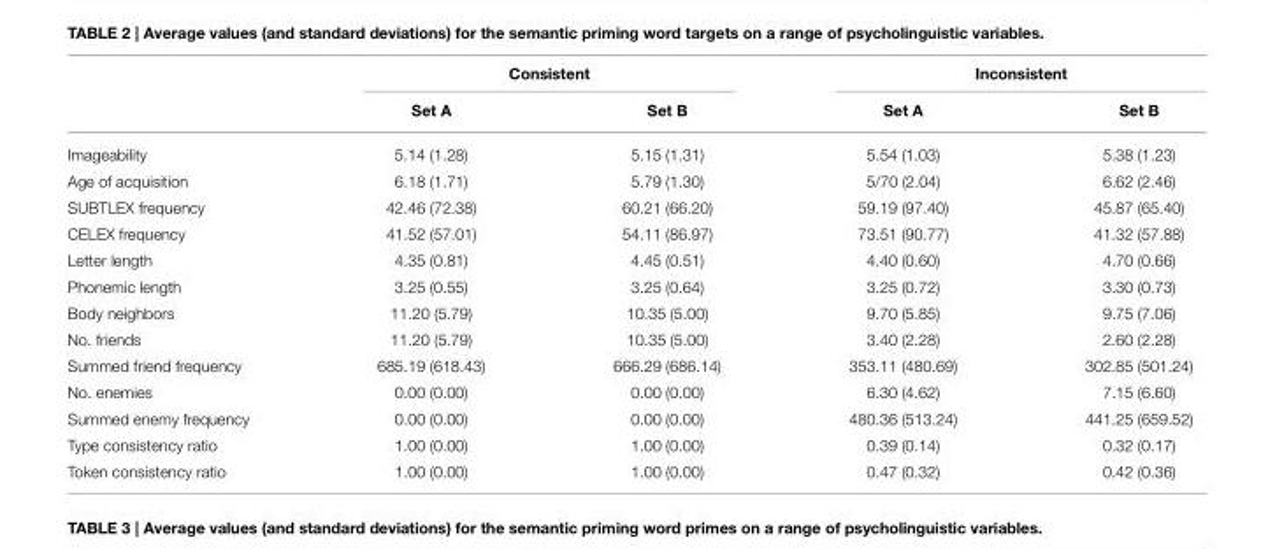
<table><thead><tr><td rowspan="2"></td><td colspan="2">Consistent</td><td colspan="2">Inconsistent</td></tr><tr><td>Set A</td><td>Set B</td><td>Set A</td><td>Set B</td></tr></thead><tbody><tr><td>Imageability</td><td>5.14 (1.28)</td><td>5.15 (1.31)</td><td>5.54 (1.03)</td><td>5.38 (1.23)</td></tr><tr><td>Age of acquisition</td><td>6.18 (1.71)</td><td>5.79 (1.30)</td><td>5/70 (2.04)</td><td>6.62 (2.46)</td></tr><tr><td>SUBTLEX frequency</td><td>42.46 (72.38)</td><td>60.21 (66.20)</td><td>59.19 (97.40)</td><td>45.87 (65.40)</td></tr><tr><td>CELEX frequency</td><td>41.52 (57.01)</td><td>54.11 (86.97)</td><td>73.51 (90.77)</td><td>41.32 (57.88)</td></tr><tr><td>Letter length</td><td>4.35 (0.81)</td><td>4.45 (0.51)</td><td>4.40 (0.60)</td><td>4.70 (0.66)</td></tr><tr><td>Phonemic length</td><td>3.25 (0.55)</td><td>3.25 (0.64)</td><td>3.25 (0.72)</td><td>3.30 (0.73)</td></tr><tr><td>Body neighbors</td><td>11.20 (5.79)</td><td>10.35 (5.00)</td><td>9.70 (5.85)</td><td>9.75 (7.06)</td></tr><tr><td>No. friends</td><td>11.20 (5.79)</td><td>10.35 (5.00)</td><td>3.40 (2.28)</td><td>2.60 (2.28)</td></tr><tr><td>Summed friend frequency</td><td>685.19 (618.43)</td><td>666.29 (686.14)</td><td>353.11 (480.69)</td><td>302.85 (501.24)</td></tr><tr><td>No. enemies</td><td>0.00 (0.00)</td><td>0.00 (0.00)</td><td>6.30 (4.62)</td><td>7.15 (6.60)</td></tr><tr><td>Summed enemy frequency</td><td>0.00 (0.00)</td><td>0.00 (0.00)</td><td>480.36 (513.24)</td><td>441.25 (659.52)</td></tr><tr><td>Type consistency ratio</td><td>1.00 (0.00)</td><td>1.00 (0.00)</td><td>0.39 (0.14)</td><td>0.32 (0.17)</td></tr><tr><td>Token consistency ratio</td><td>1.00 (0.00)</td><td>1.00 (0.00)</td><td>0.47 (0.32)</td><td>0.42 (0.36)</td></tr></tbody></table>